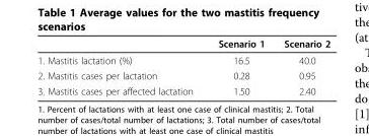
<table><thead><tr><td></td><td>Scenario 1</td><td>Scenario 2</td></tr></thead><tbody><tr><td>1. Mastitis lactation (%)</td><td>16.5</td><td>40.0</td></tr><tr><td>2. Mastitis cases per lactation</td><td>0.28</td><td>0.95</td></tr><tr><td>3. Mastitis cases per affected lactation</td><td>1.50</td><td>2.40</td></tr></tbody></table>